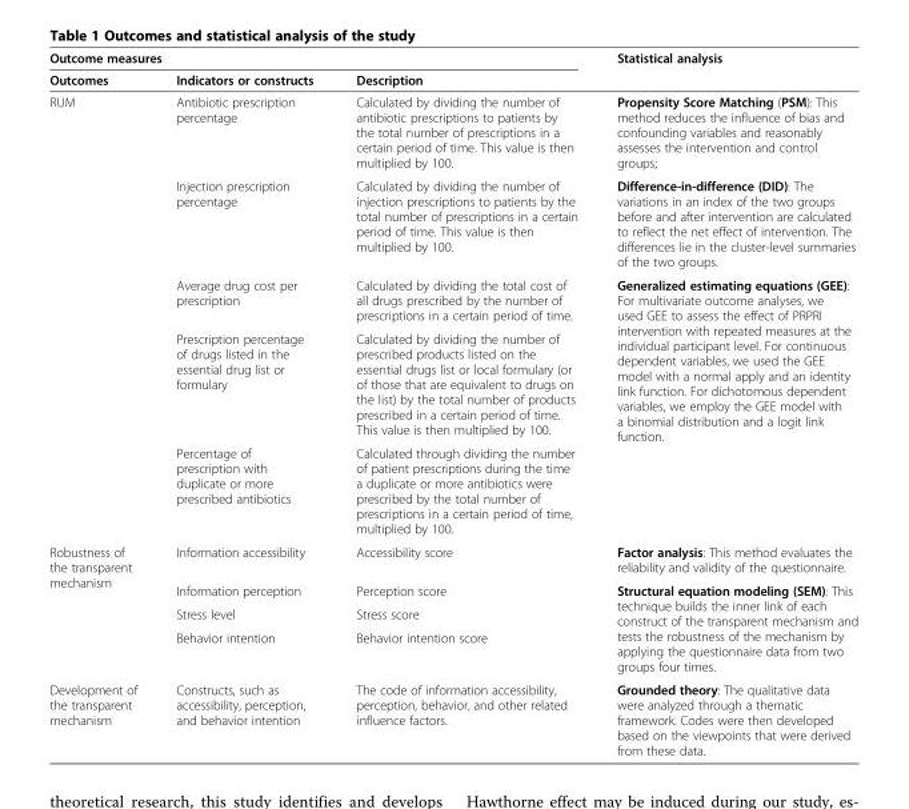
<table><thead><tr><td colspan="3">Outcome measures</td><td rowspan="2">Statistical analysis</td></tr><tr><td>Outcomes</td><td>Indicators or constructs</td><td>Description</td></tr></thead><tbody><tr><td rowspan="5">RUM</td><td>Antibiotic prescription percentage</td><td>Calculated by dividing the number of antibiotic prescriptions to patients by the total number of prescriptions in a certain period of time. This value is then multiplied by 100.</td><td>Propensity Score Matching (PSM): This method reduces the influence of bias and confounding variables and reasonably assesses the intervention and control groups;</td></tr><tr><td>Injection prescription percentage</td><td>Calculated by dividing the number of injection prescriptions to patients by the total number of prescriptions in a certain period of time. This value is then multiplied by 100.</td><td>Difference-in-difference (DID): The variations in an index of the two groups before and after intervention are calculated to reflect the net effect of intervention. The differences lie in the cluster-level summaries of the two groups.</td></tr><tr><td>Average drug cost per prescription</td><td>Calculated by dividing the total cost of all drugs prescribed by the number of prescriptions in a certain period of time.</td><td rowspan="3">Generalized estimating equations (GEE): For multivariate outcome analyses, we used GEE to assess the effect of PRPRI intervention with repeated measures at the individual participant level. For continuous dependent variables, we used the GEE model with a normal apply and an identity link function. For dichotomous dependent variables, we employ the GEE model with a binomial distribution and a logit link function.</td></tr><tr><td>Prescription percentage of drugs listed in the essential drug list or formulary</td><td>Calculated by dividing the number of prescribed products listed on the essential drugs list or local formulary (or of those that are equivalent to drugs on the list) by the total number of products prescribed in a certain period of time. This value is then multiplied by 100.</td></tr><tr><td>Percentage of prescription with duplicate or more prescribed antibiotics</td><td>Calculated through dividing the number of patient prescriptions during the time a duplicate or more antibiotics were prescribed by the total number of prescriptions in a certain period of time, multiplied by 100.</td></tr><tr><td rowspan="4">Robustness of the transparent mechanism</td><td>Information accessibility</td><td>Accessibility score</td><td>Factor analysis: This method evaluates the reliability and validity of the questionnaire.</td></tr><tr><td>Information perception</td><td>Perception score</td><td rowspan="3">Structural equation modeling (SEM): This technique builds the inner link of each construct of the transparent mechanism and tests the robustness of the mechanism by applying the questionnaire data from two groups four times.</td></tr><tr><td>Stress level</td><td>Stress score</td></tr><tr><td>Behavior intention</td><td>Behavior intention score</td></tr><tr><td>Development of the transparent mechanism</td><td>Constructs, such as accessibility, perception, and behavior intention</td><td>The code of information accessibility, perception, behavior, and other related influence factors.</td><td>Grounded theory: The qualitative data were analyzed through a thematic framework. Codes were then developed based on the viewpoints that were derived from these data.</td></tr></tbody></table>